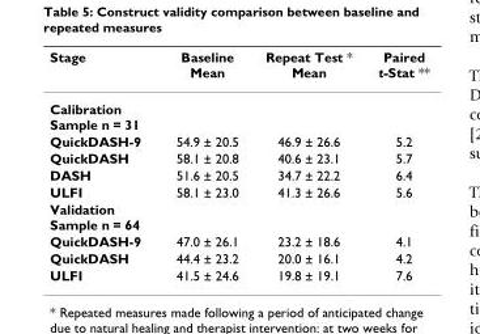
<table><thead><tr><td>Stage</td><td>Baseline Mean</td><td>Repeat Test * Mean</td><td>Paired t-Stat **</td></tr></thead><tbody><tr><td colspan="4">Calibration Sample n = 31</td></tr><tr><td>QuickDASH-9</td><td>54.9 ± 20.5</td><td>46.9 ± 26.6</td><td>5.2</td></tr><tr><td>QuickDASH</td><td>58.1 ± 20.8</td><td>40.6 ± 23.1</td><td>5.7</td></tr><tr><td>DASH</td><td>51.6 ± 20.5</td><td>34.7 ± 22.2</td><td>6.4</td></tr><tr><td>ULFI</td><td>58.1 ± 23.0</td><td>41.3 ± 26.6</td><td>5.6</td></tr><tr><td colspan="4">Validation Sample n = 64</td></tr><tr><td>QuickDASH-9</td><td>47.0 ± 26.1</td><td>23.2 ± 18.6</td><td>4.1</td></tr><tr><td>QuickDASH</td><td>44.4 ± 23.2</td><td>20.0 ± 16.1</td><td>4.2</td></tr><tr><td>ULFI</td><td>41.5 ± 24.6</td><td>19.8 ± 19.1</td><td>7.6</td></tr></tbody></table>